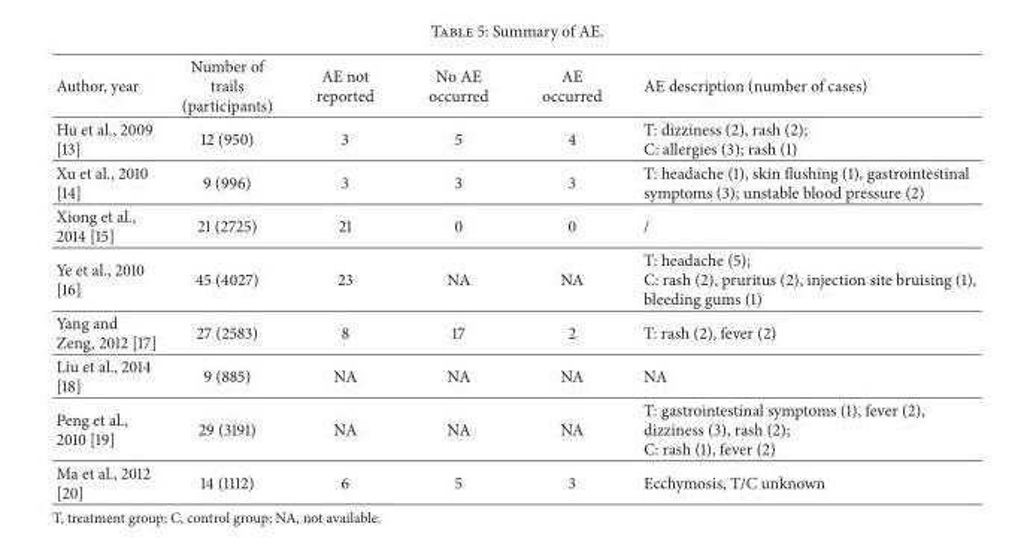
<table><thead><tr><td>Author, year</td><td>Number of trails (participants)</td><td>AE not reported</td><td>No AE occurred</td><td>AE occurred</td><td>AE description (number of cases)</td></tr></thead><tbody><tr><td>Hu et al., 2009 [13]</td><td>12 (950)</td><td>3</td><td>5</td><td>4</td><td>T: dizziness (2), rash (2); C: allergies (3); rash (1)</td></tr><tr><td>Xu et al., 2010 [14]</td><td>9 (996)</td><td>3</td><td>3</td><td>3</td><td>T: headache (1), skin flushing (1), gastrointestinal symptoms (3); unstable blood pressure (2)</td></tr><tr><td>Xiong et al., 2014 [15]</td><td>21 (2725)</td><td>21</td><td>0</td><td>0</td><td>/</td></tr><tr><td>Ye et al., 2010 [16]</td><td>45 (4027)</td><td>23</td><td>NA</td><td>NA</td><td>T: headache (5); C: rash (2), pruritus (2), injection site bruising (1), bleeding gums (1)</td></tr><tr><td>Yang and Zeng, 2012 [17]</td><td>27 (2583)</td><td>8</td><td>17</td><td>2</td><td>T: rash (2), fever (2)</td></tr><tr><td>Liu et al., 2014 [18]</td><td>9 (885)</td><td>NA</td><td>NA</td><td>NA</td><td>NA</td></tr><tr><td>Peng et al., 2010 [19]</td><td>29 (3191)</td><td>NA</td><td>NA</td><td>NA</td><td>T: gastrointestinal symptoms (1), fever (2), dizziness (3), rash (2); C: rash (1), fever (2)</td></tr><tr><td>Ma et al., 2012 [20]</td><td>14 (1112)</td><td>6</td><td>5</td><td>3</td><td>Ecchymosis, T/C unknown</td></tr></tbody></table>